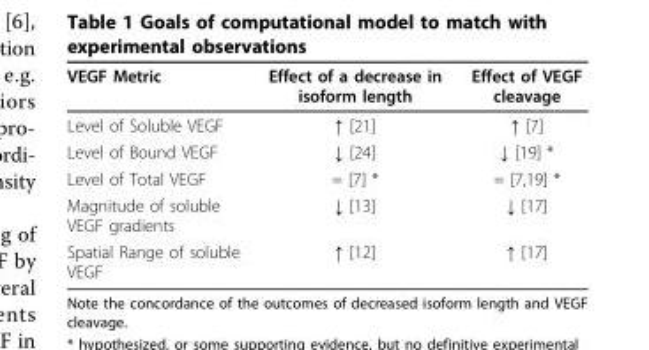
<table><thead><tr><td>VEGF Metric</td><td>Effect of a decrease in isoform length</td><td>Effect of VEGF cleavage</td></tr></thead><tbody><tr><td>Level of Soluble VEGF</td><td>↑ [21]</td><td>↑ [7]</td></tr><tr><td>Level of Bound VEGF</td><td>↓ [24]</td><td>↓ [19] *</td></tr><tr><td>Level of Total VEGF</td><td>= [7] *</td><td>= [7,19] *</td></tr><tr><td>Magnitude of soluble VEGF gradients</td><td>↓ [13]</td><td>↓ [17]</td></tr><tr><td>Spatial Range of soluble VEGF</td><td>↑ [12]</td><td>↑ [17]</td></tr></tbody></table>